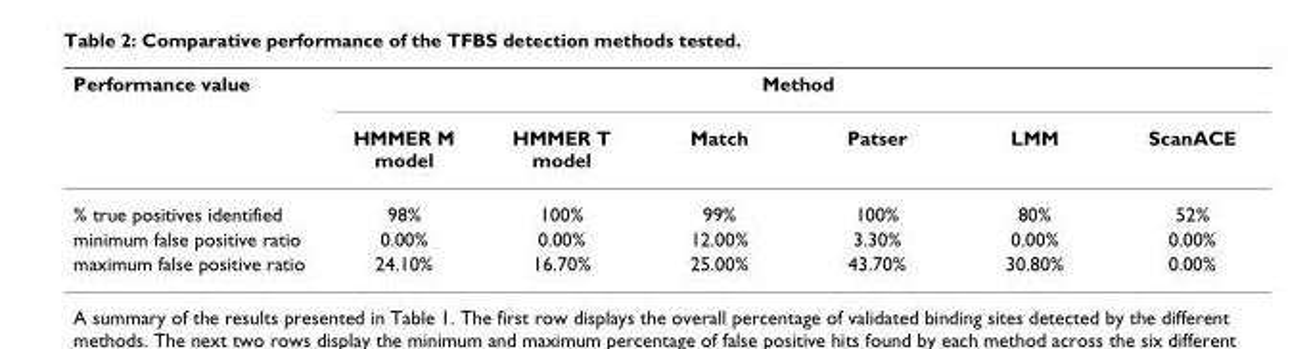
<table><thead><tr><td rowspan="2">Performance value</td><td colspan="6">Method</td></tr><tr><td>HMMER M model</td><td>HMMER T model</td><td>Match</td><td>Patser</td><td>LMM</td><td>ScanACE</td></tr></thead><tbody><tr><td>% true positives identified</td><td>98%</td><td>100%</td><td>99%</td><td>100%</td><td>80%</td><td>52%</td></tr><tr><td>minimum false positive ratio</td><td>0.00%</td><td>0.00%</td><td>12.00%</td><td>3.30%</td><td>0.00%</td><td>0.00%</td></tr><tr><td>maximum false positive ratio</td><td>24.10%</td><td>16.70%</td><td>25.00%</td><td>43.70%</td><td>30.80%</td><td>0.00%</td></tr></tbody></table>